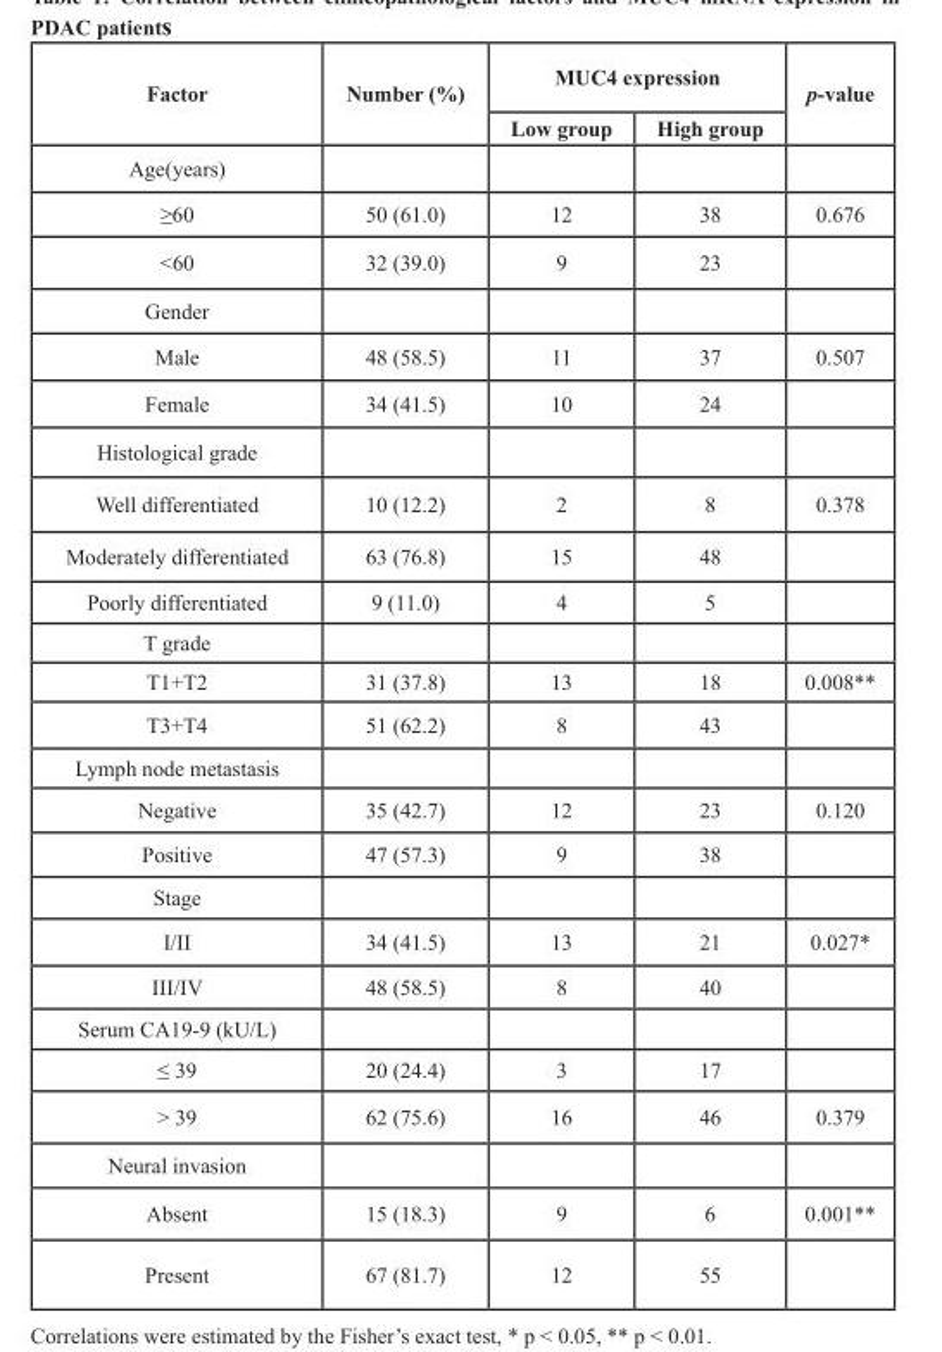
<table><thead><tr><td rowspan="2">Factor</td><td rowspan="2">Number (%)</td><td colspan="2">MUC4 expression</td><td rowspan="2">p-value</td></tr><tr><td>Low group</td><td>High group</td></tr></thead><tbody><tr><td colspan="5">Age(years)</td></tr><tr><td>≥60</td><td>50 (61.0)</td><td>12</td><td>38</td><td>0.676</td></tr><tr><td>&lt;60</td><td>32 (39.0)</td><td>9</td><td>23</td><td></td></tr><tr><td colspan="5">Gender</td></tr><tr><td>Male</td><td>48 (58.5)</td><td>11</td><td>37</td><td>0.507</td></tr><tr><td>Female</td><td>34 (41.5)</td><td>10</td><td>24</td><td></td></tr><tr><td colspan="5">Histological grade</td></tr><tr><td>Well differentiated</td><td>10 (12.2)</td><td>2</td><td>8</td><td>0.378</td></tr><tr><td>Moderately differentiated</td><td>63 (76.8)</td><td>15</td><td>48</td><td></td></tr><tr><td>Poorly differentiated</td><td>9 (11.0)</td><td>4</td><td>5</td><td></td></tr><tr><td colspan="5">T grade</td></tr><tr><td>T1+T2</td><td>31 (37.8)</td><td>13</td><td>18</td><td>0.008**</td></tr><tr><td>T3+T4</td><td>51 (62.2)</td><td>8</td><td>43</td><td></td></tr><tr><td colspan="5">Lymph node metastasis</td></tr><tr><td>Negative</td><td>35 (42.7)</td><td>12</td><td>23</td><td>0.120</td></tr><tr><td>Positive</td><td>47 (57.3)</td><td>9</td><td>38</td><td></td></tr><tr><td colspan="5">Stage</td></tr><tr><td>I/II</td><td>34 (41.5)</td><td>13</td><td>21</td><td>0.027*</td></tr><tr><td>III/IV</td><td>48 (58.5)</td><td>8</td><td>40</td><td></td></tr><tr><td colspan="5">Serum CA19-9 (kU/L)</td></tr><tr><td>≤ 39</td><td>20 (24.4)</td><td>3</td><td>17</td><td></td></tr><tr><td>&gt; 39</td><td>62 (75.6)</td><td>16</td><td>46</td><td>0.379</td></tr><tr><td colspan="5">Neural invasion</td></tr><tr><td>Absent</td><td>15 (18.3)</td><td>9</td><td>6</td><td>0.001**</td></tr><tr><td>Present</td><td>67 (81.7)</td><td>12</td><td>55</td><td></td></tr></tbody></table>